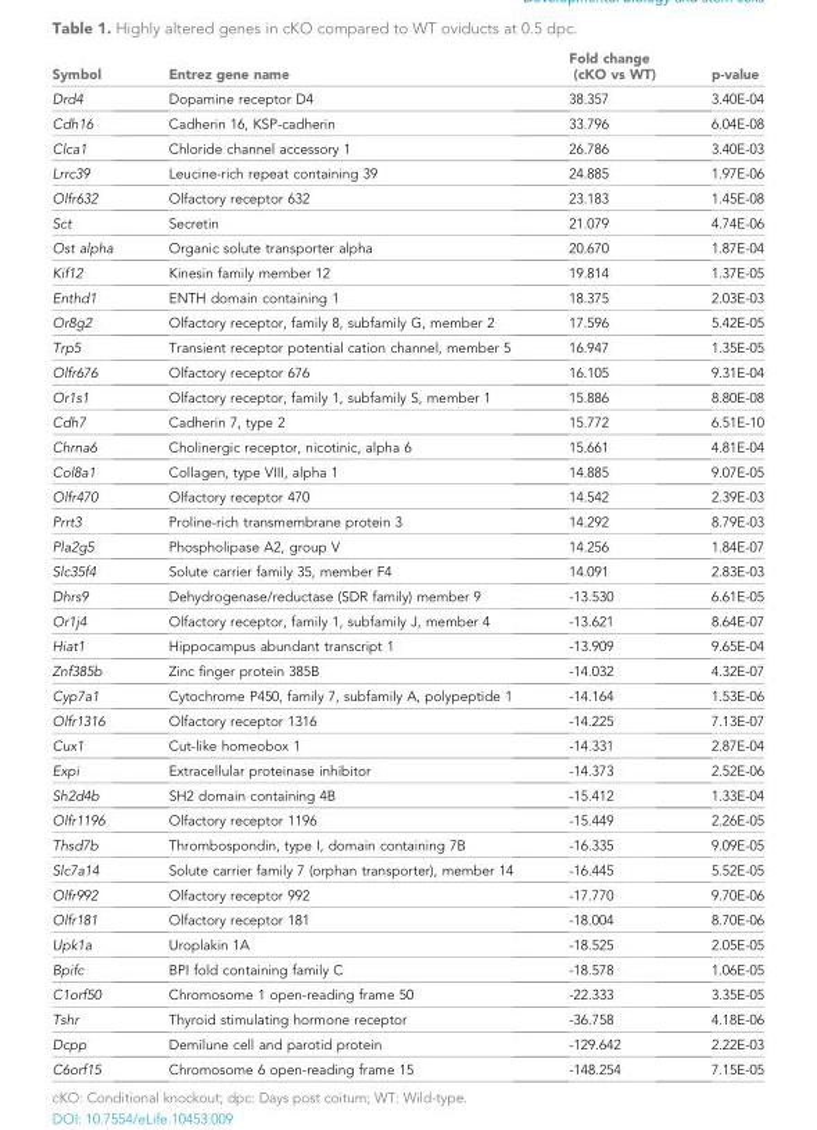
<table><thead><tr><td>Symbol</td><td>Entrez gene name</td><td>Fold change (cKO vs WT)</td><td>p-value</td></tr></thead><tbody><tr><td>Drd4</td><td>Dopamine receptor D4</td><td>38.357</td><td>3.40E-04</td></tr><tr><td>Cdh16</td><td>Cadherin 16, KSP-cadherin</td><td>33.796</td><td>6.04E-08</td></tr><tr><td>Clca1</td><td>Chloride channel accessory 1</td><td>26.786</td><td>3.40E-03</td></tr><tr><td>Lrrc39</td><td>Leucine-rich repeat containing 39</td><td>24.885</td><td>1.97E-06</td></tr><tr><td>Olfr632</td><td>Olfactory receptor 632</td><td>23.183</td><td>1.45E-08</td></tr><tr><td>Sct</td><td>Secretin</td><td>21.079</td><td>4.74E-06</td></tr><tr><td>Ost alpha</td><td>Organic solute transporter alpha</td><td>20.670</td><td>1.87E-04</td></tr><tr><td>Kif12</td><td>Kinesin family member 12</td><td>19.814</td><td>1.37E-05</td></tr><tr><td>Enthd1</td><td>ENTH domain containing 1</td><td>18.375</td><td>2.03E-03</td></tr><tr><td>Or8g2</td><td>Olfactory receptor, family 8, subfamily G, member 2</td><td>17.596</td><td>5.42E-05</td></tr><tr><td>Trp5</td><td>Transient receptor potential cation channel, member 5</td><td>16.947</td><td>1.35E-05</td></tr><tr><td>Olfr676</td><td>Olfactory receptor 676</td><td>16.105</td><td>9.31E-04</td></tr><tr><td>Or1s1</td><td>Olfactory receptor, family 1, subfamily S, member 1</td><td>15.886</td><td>8.80E-08</td></tr><tr><td>Cdh7</td><td>Cadherin 7, type 2</td><td>15.772</td><td>6.51E-10</td></tr><tr><td>Chrna6</td><td>Cholinergic receptor, nicotinic, alpha 6</td><td>15.661</td><td>4.81E-04</td></tr><tr><td>Col8a1</td><td>Collagen, type VIII, alpha 1</td><td>14.885</td><td>9.07E-05</td></tr><tr><td>Olfr470</td><td>Olfactory receptor 470</td><td>14.542</td><td>2.39E-03</td></tr><tr><td>Prrt3</td><td>Proline-rich transmembrane protein 3</td><td>14.292</td><td>8.79E-03</td></tr><tr><td>Pla2g5</td><td>Phospholipase A2, group V</td><td>14.256</td><td>1.84E-07</td></tr><tr><td>Slc35f4</td><td>Solute carrier family 35, member F4</td><td>14.091</td><td>2.83E-03</td></tr><tr><td>Dhrs9</td><td>Dehydrogenase/reductase (SDR family) member 9</td><td>-13.530</td><td>6.61E-05</td></tr><tr><td>Or1j4</td><td>Olfactory receptor, family 1, subfamily J, member 4</td><td>-13.621</td><td>8.64E-07</td></tr><tr><td>Hiat1</td><td>Hippocampus abundant transcript 1</td><td>-13.909</td><td>9.65E-04</td></tr><tr><td>Znf385b</td><td>Zinc finger protein 385B</td><td>-14.032</td><td>4.32E-07</td></tr><tr><td>Cyp7a1</td><td>Cytochrome P450, family 7, subfamily A, polypeptide 1</td><td>-14.164</td><td>1.53E-06</td></tr><tr><td>Olfr1316</td><td>Olfactory receptor 1316</td><td>-14.225</td><td>7.13E-07</td></tr><tr><td>Cux1</td><td>Cut-like homeobox 1</td><td>-14.331</td><td>2.87E-04</td></tr><tr><td>Expi</td><td>Extracellular proteinase inhibitor</td><td>-14.373</td><td>2.52E-06</td></tr><tr><td>Sh2d4b</td><td>SH2 domain containing 4B</td><td>-15.412</td><td>1.33E-04</td></tr><tr><td>Olfr1196</td><td>Olfactory receptor 1196</td><td>-15.449</td><td>2.26E-05</td></tr><tr><td>Thsd7b</td><td>Thrombospondin, type I, domain containing 7B</td><td>-16.335</td><td>9.09E-05</td></tr><tr><td>Slc7a14</td><td>Solute carrier family 7 (orphan transporter), member 14</td><td>-16.445</td><td>5.52E-05</td></tr><tr><td>Olfr992</td><td>Olfactory receptor 992</td><td>-17.770</td><td>9.70E-06</td></tr><tr><td>Olfr181</td><td>Olfactory receptor 181</td><td>-18.004</td><td>8.70E-06</td></tr><tr><td>Upk1a</td><td>Uroplakin 1A</td><td>-18.525</td><td>2.05E-05</td></tr><tr><td>Bpifc</td><td>BPI fold containing family C</td><td>-18.578</td><td>1.06E-05</td></tr><tr><td>C1orf50</td><td>Chromosome 1 open-reading frame 50</td><td>-22.333</td><td>3.35E-05</td></tr><tr><td>Tshr</td><td>Thyroid stimulating hormone receptor</td><td>-36.758</td><td>4.18E-06</td></tr><tr><td>Dcpp</td><td>Demilune cell and parotid protein</td><td>-129.642</td><td>2.22E-03</td></tr><tr><td>C6orf15</td><td>Chromosome 6 open-reading frame 15</td><td>-148.254</td><td>7.15E-05</td></tr></tbody></table>